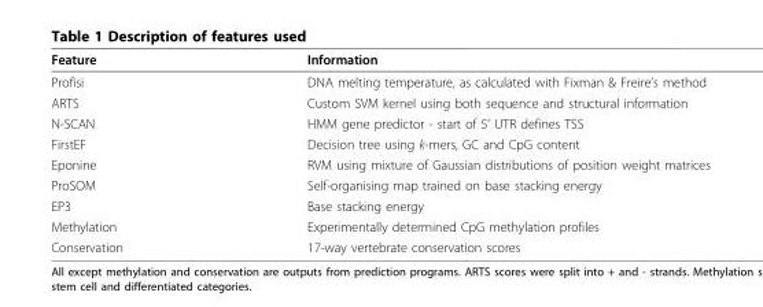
<table><thead><tr><td>Feature</td><td>Information</td></tr></thead><tbody><tr><td>Profisi</td><td>DNA melting temperature, as calculated with Fixman &amp; Freire’s method</td></tr><tr><td>ARTS</td><td>Custom SVM kernel using both sequence and structural information</td></tr><tr><td>N-SCAN</td><td>HMM gene predictor - start of 5’ UTR defines TSS</td></tr><tr><td>FirstEF</td><td>Decision tree using k-mers, GC and CpG content</td></tr><tr><td>Eponine</td><td>RVM using mixture of Gaussian distributions of position weight matrices</td></tr><tr><td>ProSOM</td><td>Self-organising map trained on base stacking energy</td></tr><tr><td>EP3</td><td>Base stacking energy</td></tr><tr><td>Methylation</td><td>Experimentally determined CpG methylation profiles</td></tr><tr><td>Conservation</td><td>17-way vertebrate conservation scores</td></tr></tbody></table>